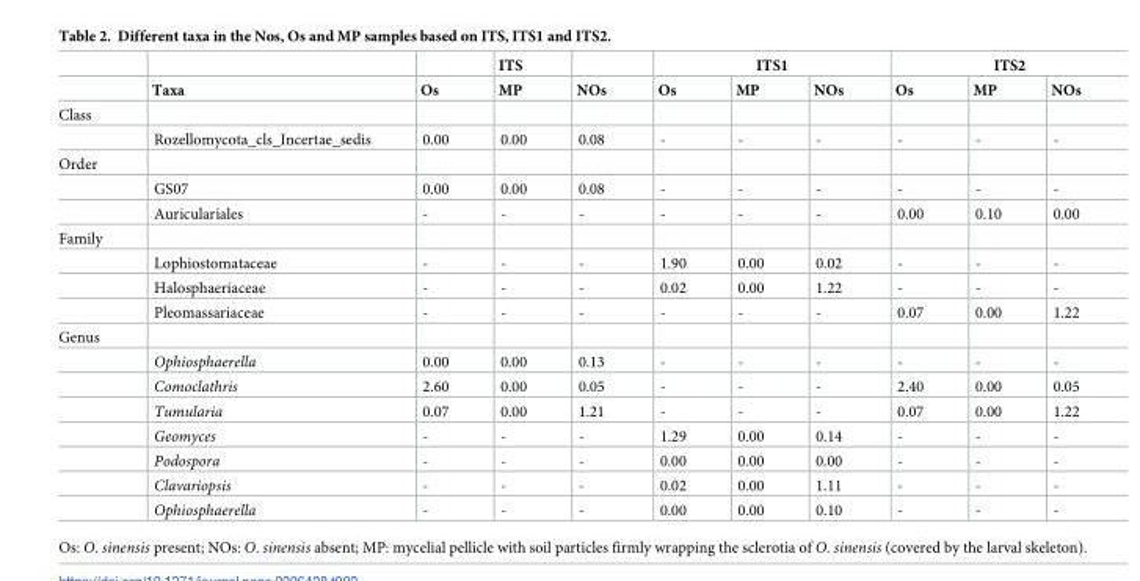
<table><thead><tr><td rowspan="2"></td><td rowspan="2">Taxa</td><td rowspan="2">Os</td><td rowspan="2">ITS MP</td><td rowspan="2">NOs</td><td colspan="3">ITS1</td><td colspan="3">ITS2</td></tr><tr><td>Os</td><td>MP</td><td>NOs</td><td>Os</td><td>MP</td><td>NOs</td></tr></thead><tbody><tr><td colspan="11">Class</td></tr><tr><td></td><td>Rozellomycota_cls_Incertae_sedis</td><td>0.00</td><td>0.00</td><td>0.08</td><td>-</td><td>-</td><td>-</td><td>-</td><td>-</td><td>-</td></tr><tr><td colspan="11">Order</td></tr><tr><td></td><td>GS07</td><td>0.00</td><td>0.00</td><td>0.08</td><td>-</td><td>-</td><td>-</td><td>-</td><td>-</td><td>-</td></tr><tr><td></td><td>Auriculariales</td><td>-</td><td>-</td><td>-</td><td>-</td><td>-</td><td>-</td><td>0.00</td><td>0.10</td><td>0.00</td></tr><tr><td colspan="11">Family</td></tr><tr><td></td><td>Lophiostomataceae</td><td>-</td><td>-</td><td>-</td><td>1.90</td><td>0.00</td><td>0.02</td><td>-</td><td>-</td><td>-</td></tr><tr><td></td><td>Halosphaeriaceae</td><td>-</td><td>-</td><td>-</td><td>0.02</td><td>0.00</td><td>1.22</td><td>-</td><td>-</td><td>-</td></tr><tr><td></td><td>Pleomassariaceae</td><td>-</td><td>-</td><td>-</td><td>-</td><td>-</td><td>-</td><td>0.07</td><td>0.00</td><td>1.22</td></tr><tr><td colspan="11">Genus</td></tr><tr><td></td><td>Ophiosphaerella</td><td>0.00</td><td>0.00</td><td>0.13</td><td>-</td><td>-</td><td>-</td><td>-</td><td>-</td><td>-</td></tr><tr><td></td><td>Comoclathris</td><td>2.60</td><td>0.00</td><td>0.05</td><td>-</td><td>-</td><td>-</td><td>2.40</td><td>0.00</td><td>0.05</td></tr><tr><td></td><td>Tumularia</td><td>0.07</td><td>0.00</td><td>1.21</td><td>-</td><td>-</td><td>-</td><td>0.07</td><td>0.00</td><td>1.22</td></tr><tr><td></td><td>Geomyces</td><td>-</td><td>-</td><td>-</td><td>1.29</td><td>0.00</td><td>0.14</td><td>-</td><td>-</td><td>-</td></tr><tr><td></td><td>Podospora</td><td>-</td><td>-</td><td>-</td><td>0.00</td><td>0.00</td><td>0.00</td><td>-</td><td>-</td><td>-</td></tr><tr><td></td><td>Clavariopsis</td><td>-</td><td>-</td><td>-</td><td>0.02</td><td>0.00</td><td>1.11</td><td>-</td><td>-</td><td>-</td></tr><tr><td></td><td>Ophiosphaerella</td><td>-</td><td>-</td><td>-</td><td>0.00</td><td>0.00</td><td>0.10</td><td>-</td><td>-</td><td>-</td></tr></tbody></table>